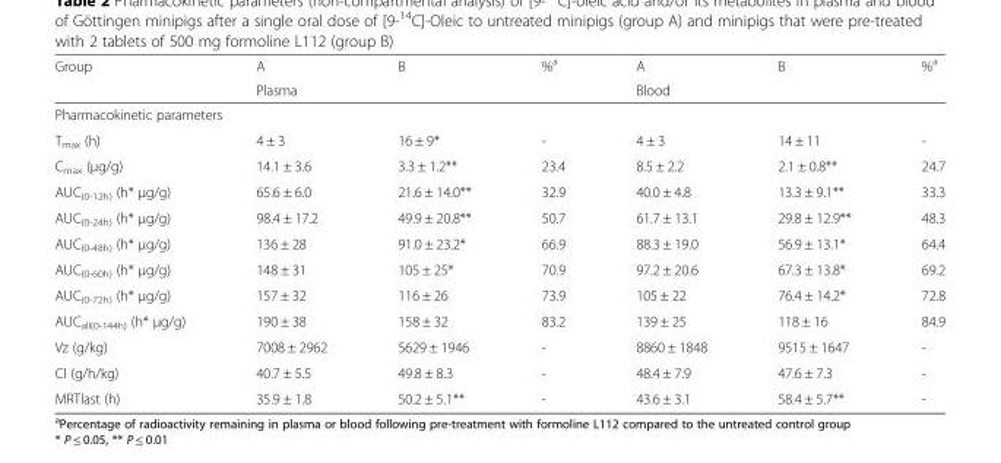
<table><thead><tr><td rowspan="2">Group</td><td>A</td><td>B</td><td rowspan="2">%<sup>a</sup></td><td>A</td><td>B</td><td rowspan="2">%<sup>a</sup></td></tr><tr><td colspan="2">Plasma</td><td colspan="2">Blood</td></tr></thead><tbody><tr><td colspan="7">Pharmacokinetic parameters</td></tr><tr><td>T<sub>max</sub> (h)</td><td>4 ± 3</td><td>16 ± 9*</td><td>-</td><td>4 ± 3</td><td>14 ± 11</td><td>-</td></tr><tr><td>C<sub>max</sub> (μg/g)</td><td>14.1 ± 3.6</td><td>3.3 ± 1.2**</td><td>23.4</td><td>8.5 ± 2.2</td><td>2.1 ± 0.8**</td><td>24.7</td></tr><tr><td>AUC<sub>(0-12h)</sub> (h* μg/g)</td><td>65.6 ± 6.0</td><td>21.6 ± 14.0**</td><td>32.9</td><td>40.0 ± 4.8</td><td>13.3 ± 9.1**</td><td>33.3</td></tr><tr><td>AUC<sub>(0-24h)</sub> (h* μg/g)</td><td>98.4 ± 17.2</td><td>49.9 ± 20.8**</td><td>50.7</td><td>61.7 ± 13.1</td><td>29.8 ± 12.9**</td><td>48.3</td></tr><tr><td>AUC<sub>(0-48h)</sub> (h* μg/g)</td><td>136 ± 28</td><td>91.0 ± 23.2*</td><td>66.9</td><td>88.3 ± 19.0</td><td>56.9 ± 13.1*</td><td>64.4</td></tr><tr><td>AUC<sub>(0-60h)</sub> (h* μg/g)</td><td>148 ± 31</td><td>105 ± 25*</td><td>70.9</td><td>97.2 ± 20.6</td><td>67.3 ± 13.8*</td><td>69.2</td></tr><tr><td>AUC<sub>(0-72h)</sub> (h* μg/g)</td><td>157 ± 32</td><td>116 ± 26</td><td>73.9</td><td>105 ± 22</td><td>76.4 ± 14.2*</td><td>72.8</td></tr><tr><td>AUC<sub>all(0-144h)</sub> (h* μg/g)</td><td>190 ± 38</td><td>158 ± 32</td><td>83.2</td><td>139 ± 25</td><td>118 ± 16</td><td>84.9</td></tr><tr><td>Vz (g/kg)</td><td>7008 ± 2962</td><td>5629 ± 1946</td><td>-</td><td>8860 ± 1848</td><td>9515 ± 1647</td><td>-</td></tr><tr><td>Cl (g/h/kg)</td><td>40.7 ± 5.5</td><td>49.8 ± 8.3</td><td>-</td><td>48.4 ± 7.9</td><td>47.6 ± 7.3</td><td>-</td></tr><tr><td>MRTlast (h)</td><td>35.9 ± 1.8</td><td>50.2 ± 5.1**</td><td>-</td><td>43.6 ± 3.1</td><td>58.4 ± 5.7**</td><td>-</td></tr></tbody></table>